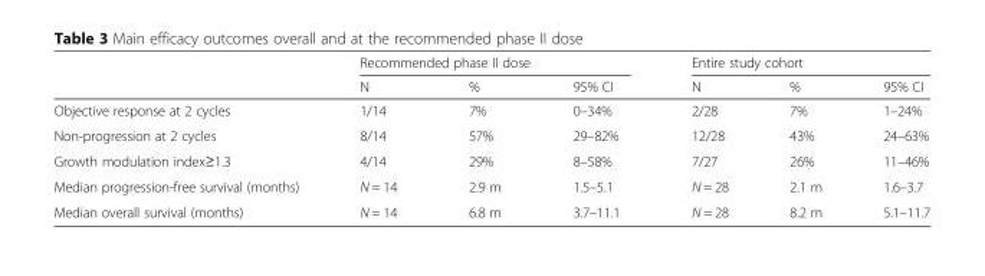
<table><thead><tr><td rowspan="2"></td><td colspan="3">Recommended phase II dose</td><td colspan="3">Entire study cohort</td></tr><tr><td>N</td><td>%</td><td>95% CI</td><td>N</td><td>%</td><td>95% CI</td></tr></thead><tbody><tr><td>Objective response at 2 cycles</td><td>1/14</td><td>7%</td><td>0–34%</td><td>2/28</td><td>7%</td><td>1–24%</td></tr><tr><td>Non-progression at 2 cycles</td><td>8/14</td><td>57%</td><td>29–82%</td><td>12/28</td><td>43%</td><td>24–63%</td></tr><tr><td>Growth modulation index≥1.3</td><td>4/14</td><td>29%</td><td>8–58%</td><td>7/27</td><td>26%</td><td>11–46%</td></tr><tr><td>Median progression-free survival (months)</td><td>N = 14</td><td>2.9 m</td><td>1.5–5.1</td><td>N = 28</td><td>2.1 m</td><td>1.6–3.7</td></tr><tr><td>Median overall survival (months)</td><td>N = 14</td><td>6.8 m</td><td>3.7–11.1</td><td>N = 28</td><td>8.2 m</td><td>5.1–11.7</td></tr></tbody></table>